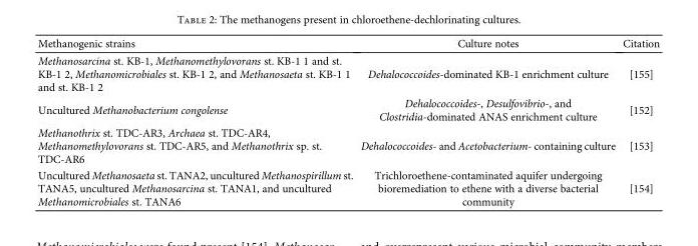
<table><thead><tr><td>Methanogenic strains</td><td>Culture notes</td><td>Citation</td></tr></thead><tbody><tr><td>Methanosarcina st. KB-1, Methanomethylovorans st. KB-1 1 and st. KB-1 2, Methanomicrobiales st. KB-1 2, and Methanosaeta st. KB-1 1 and st. KB-1 2</td><td>Dehalococcoides-dominated KB-1 enrichment culture</td><td>[155]</td></tr><tr><td>Uncultured Methanobacterium congolense</td><td>Dehalococcoides-, Desulfovibrio-, and Clostridia-dominated ANAS enrichment culture</td><td>[152]</td></tr><tr><td>Methanothrix st. TDC-AR3, Archaea st. TDC-AR4, Methanomethylovorans st. TDC-AR5, and Methanothrix sp. st. TDC-AR6</td><td>Dehalococcoides- and Acetobacterium- containing culture</td><td>[153]</td></tr><tr><td>Uncultured Methanosaeta st. TANA2, uncultured Methanospirillum st. TANA5, uncultured Methanosarcina st. TANA1, and uncultured Methanomicrobiales st. TANA6</td><td>Trichloroethene-contaminated aquifer undergoing bioremediation to ethene with a diverse bacterial community</td><td>[154]</td></tr></tbody></table>